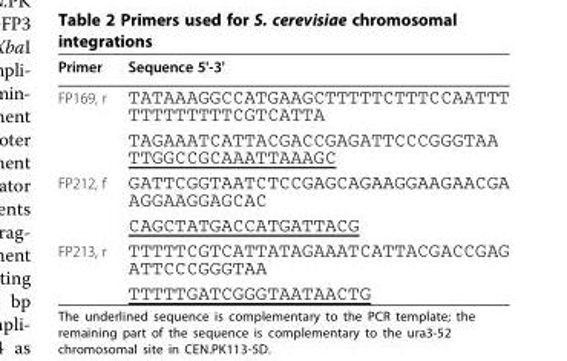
<table><thead><tr><td>Primer</td><td>Sequence 5&#x27;-3&#x27;</td></tr></thead><tbody><tr><td rowspan="2">FP169, r</td><td>TATAAAGGCCATGAAGCTTTTTCTTTCCAATTT TTTTTTTTTCGTCATTA</td></tr><tr><td>TAGAAATCATTACGACCGAGATTCCCGGGTAA TTGGCCGCAAATTAAAGC</td></tr><tr><td rowspan="2">FP212, f</td><td>GATTCGGTAATCTCCGAGCAGAAGGAAGAACGA AGGAAGGAGCAC</td></tr><tr><td>CAGCTATGACCATGATTACG</td></tr><tr><td rowspan="2">FP213, r</td><td>TTTTTCGTCATTATAGAAATCATTACGACCGAG ATTCCCGGGTAA</td></tr><tr><td>TTTTTGATCGGGTAATAACTG</td></tr></tbody></table>